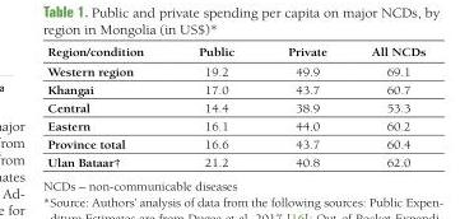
<table><thead><tr><td>Region/condition</td><td>Public</td><td>Private</td><td>All NCDs</td></tr></thead><tbody><tr><td>Western region</td><td>19.2</td><td>49.9</td><td>69.1</td></tr><tr><td>Khangai</td><td>17.0</td><td>43.7</td><td>60.7</td></tr><tr><td>Central</td><td>14.4</td><td>38.9</td><td>53.3</td></tr><tr><td>Eastern</td><td>16.1</td><td>44.0</td><td>60.2</td></tr><tr><td>Province total</td><td>16.6</td><td>43.7</td><td>60.4</td></tr><tr><td>Ulan Bataar†</td><td>21.2</td><td>40.8</td><td>62.0</td></tr></tbody></table>